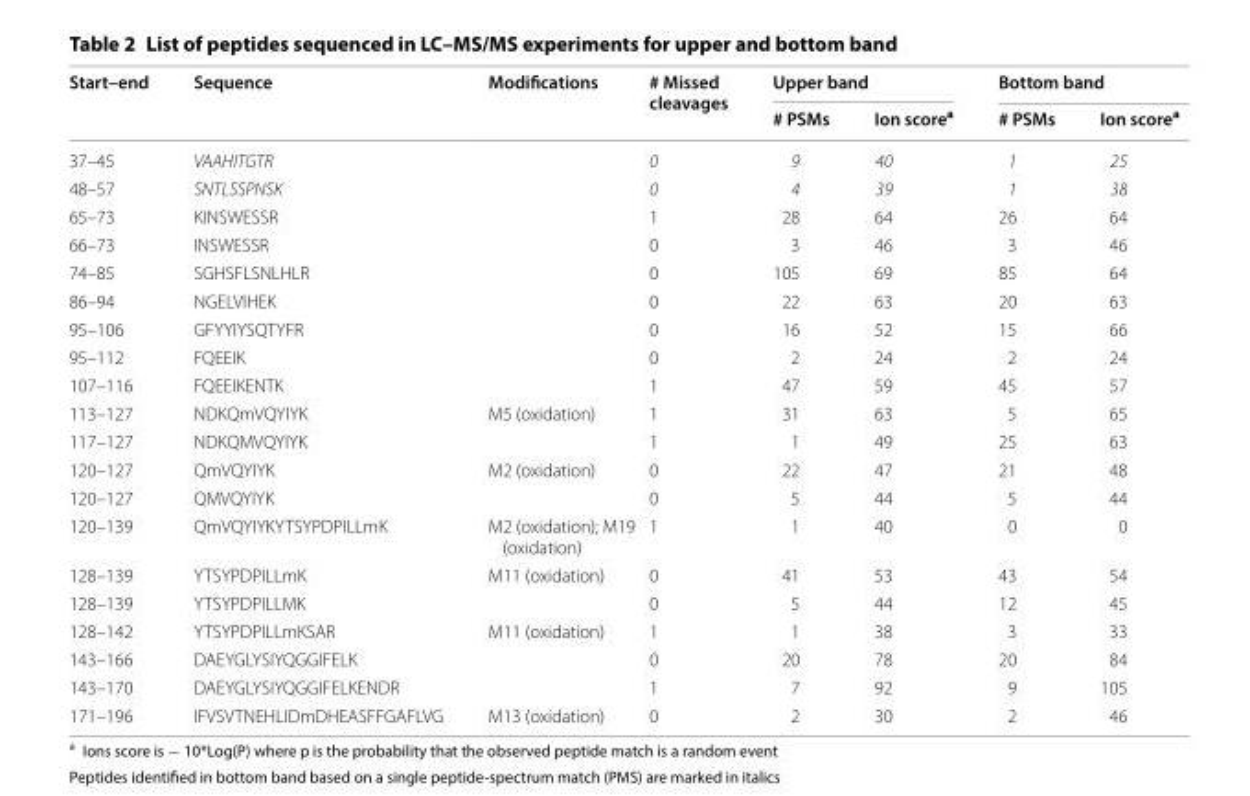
<table><thead><tr><td rowspan="2">Start–end</td><td rowspan="2">Sequence</td><td rowspan="2">Modifications</td><td rowspan="2"># Missed cleavages</td><td colspan="2">Upper band</td><td colspan="2">Bottom band</td></tr><tr><td># PSMs</td><td>Ion score<sup>a</sup></td><td># PSMs</td><td>Ion score<sup>a</sup></td></tr></thead><tbody><tr><td>37–45</td><td>VAAHITGTR</td><td></td><td>0</td><td>9</td><td>40</td><td>1</td><td>25</td></tr><tr><td>48–57</td><td>SNTLSSPNSK</td><td></td><td>0</td><td>4</td><td>39</td><td>1</td><td>38</td></tr><tr><td>65–73</td><td>KINSWESSR</td><td></td><td>1</td><td>28</td><td>64</td><td>26</td><td>64</td></tr><tr><td>66–73</td><td>INSWESSR</td><td></td><td>0</td><td>3</td><td>46</td><td>3</td><td>46</td></tr><tr><td>74–85</td><td>SGHSFLSNLHLR</td><td></td><td>0</td><td>105</td><td>69</td><td>85</td><td>64</td></tr><tr><td>86–94</td><td>NGELVIHEK</td><td></td><td>0</td><td>22</td><td>63</td><td>20</td><td>63</td></tr><tr><td>95–106</td><td>GFYYIYSQTYFR</td><td></td><td>0</td><td>16</td><td>52</td><td>15</td><td>66</td></tr><tr><td>95–112</td><td>FQEEIK</td><td></td><td>0</td><td>2</td><td>24</td><td>2</td><td>24</td></tr><tr><td>107–116</td><td>FQEEIKENTK</td><td></td><td>1</td><td>47</td><td>59</td><td>45</td><td>57</td></tr><tr><td>113–127</td><td>NDKQmVQYIYK</td><td>M5 (oxidation)</td><td>1</td><td>31</td><td>63</td><td>5</td><td>65</td></tr><tr><td>117–127</td><td>NDKQMVQYIYK</td><td></td><td>1</td><td>1</td><td>49</td><td>25</td><td>63</td></tr><tr><td>120–127</td><td>QmVQYIYK</td><td>M2 (oxidation)</td><td>0</td><td>22</td><td>47</td><td>21</td><td>48</td></tr><tr><td>120–127</td><td>QMVQYIYK</td><td></td><td>0</td><td>5</td><td>44</td><td>5</td><td>44</td></tr><tr><td>120–139</td><td>QmVQYIYKYTSYPDPILLmK</td><td>M2 (oxidation); M19 (oxidation)</td><td>1</td><td>1</td><td>40</td><td>0</td><td>0</td></tr><tr><td>128–139</td><td>YTSYPDPILLmK</td><td>M11 (oxidation)</td><td>0</td><td>41</td><td>53</td><td>43</td><td>54</td></tr><tr><td>128–139</td><td>YTSYPDPILLMK</td><td></td><td>0</td><td>5</td><td>44</td><td>12</td><td>45</td></tr><tr><td>128–142</td><td>YTSYPDPILLmKSAR</td><td>M11 (oxidation)</td><td>1</td><td>1</td><td>38</td><td>3</td><td>33</td></tr><tr><td>143–166</td><td>DAEYGLYSIYQGGIFELK</td><td></td><td>0</td><td>20</td><td>78</td><td>20</td><td>84</td></tr><tr><td>143–170</td><td>DAEYGLYSIYQGGIFELKENDR</td><td></td><td>1</td><td>7</td><td>92</td><td>9</td><td>105</td></tr><tr><td>171–196</td><td>IFVSVTNEHLIDmDHEASFFGAFLVG</td><td>M13 (oxidation)</td><td>0</td><td>2</td><td>30</td><td>2</td><td>46</td></tr></tbody></table>